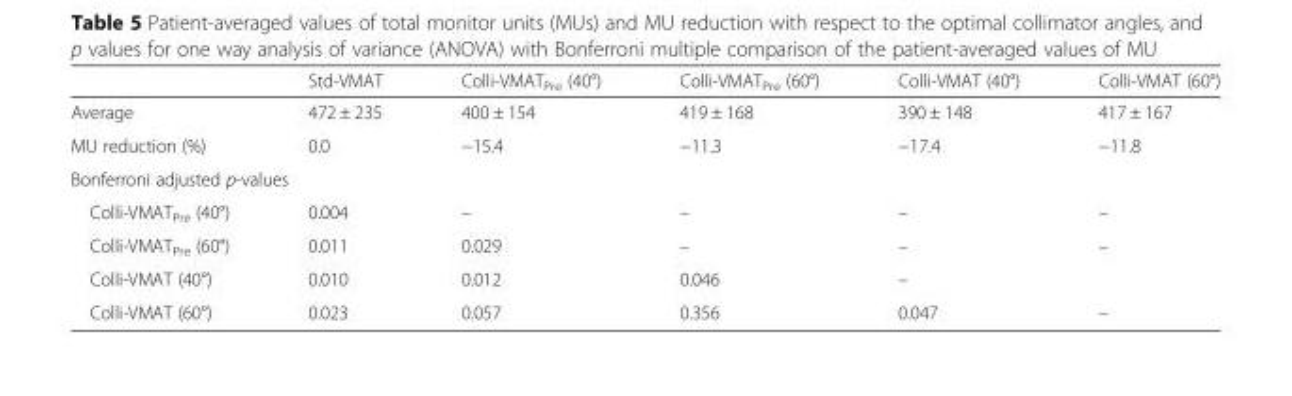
<table><thead><tr><td></td><td>Std-VMAT</td><td>Colli-VMAT<sub>Pre</sub> (40°)</td><td>Colli-VMAT<sub>Pre</sub> (60°)</td><td>Colli-VMAT (40°)</td><td>Colli-VMAT (60°)</td></tr></thead><tbody><tr><td>Average</td><td>472 ± 235</td><td>400 ± 154</td><td>419 ± 168</td><td>390 ± 148</td><td>417 ± 167</td></tr><tr><td>MU reduction (%)</td><td>0.0</td><td>−15.4</td><td>−11.3</td><td>−17.4</td><td>−11.8</td></tr><tr><td colspan="6">Bonferroni adjusted p-values</td></tr><tr><td>Colli-VMAT<sub>Pre</sub> (40°)</td><td>0.004</td><td>–</td><td>–</td><td>–</td><td>–</td></tr><tr><td>Colli-VMAT<sub>Pre</sub> (60°)</td><td>0.011</td><td>0.029</td><td>–</td><td>–</td><td>–</td></tr><tr><td>Colli-VMAT (40°)</td><td>0.010</td><td>0.012</td><td>0.046</td><td>–</td><td></td></tr><tr><td>Colli-VMAT (60°)</td><td>0.023</td><td>0.057</td><td>0.356</td><td>0.047</td><td>–</td></tr></tbody></table>